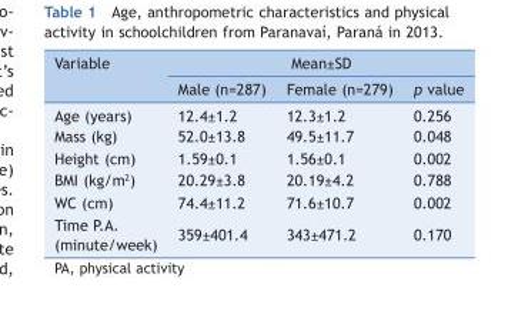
<table><thead><tr><td rowspan="2">Variable</td><td colspan="3">Mean±SD</td></tr><tr><td>Male (n=287)</td><td>Female (n=279)</td><td>p value</td></tr></thead><tbody><tr><td>Age (years)</td><td>12.4±1.2</td><td>12.3±1.2</td><td>0.256</td></tr><tr><td>Mass (kg)</td><td>52.0±13.8</td><td>49.5±11.7</td><td>0.048</td></tr><tr><td>Height (cm)</td><td>1.59±0.1</td><td>1.56±0.1</td><td>0.002</td></tr><tr><td>BMI (kg/m<sup>2</sup>)</td><td>20.29±3.8</td><td>20.19±4.2</td><td>0.788</td></tr><tr><td>WC (cm)</td><td>74.4±11.2</td><td>71.6±10.7</td><td>0.002</td></tr><tr><td>Time P.A. (minute/week)</td><td>359±401.4</td><td>343±471.2</td><td>0.170</td></tr><tr><td colspan="4">PA, physical activity</td></tr></tbody></table>